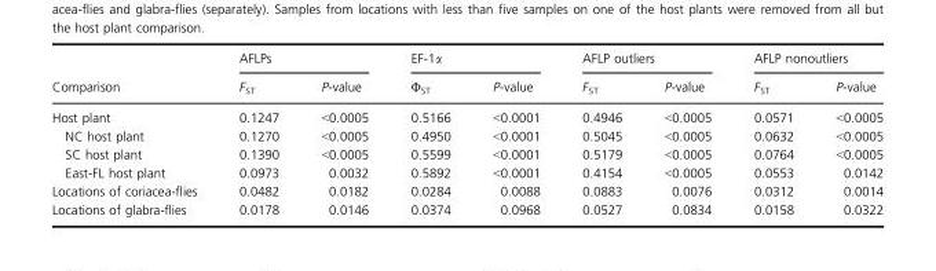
<table><thead><tr><td rowspan="2">Comparison</td><td colspan="2">AFLPs</td><td colspan="2">EF-1α</td><td colspan="2">AFLP outliers</td><td colspan="2">AFLP nonoutliers</td></tr><tr><td>F<sub>ST</sub></td><td>P-value</td><td>Φ<sub>ST</sub></td><td>P-value</td><td>F<sub>ST</sub></td><td>P-value</td><td>F<sub>ST</sub></td><td>P-value</td></tr></thead><tbody><tr><td>Host plant</td><td>0.1247</td><td>&lt;0.0005</td><td>0.5166</td><td>&lt;0.0001</td><td>0.4946</td><td>&lt;0.0005</td><td>0.0571</td><td>&lt;0.0005</td></tr><tr><td>NC host plant</td><td>0.1270</td><td>&lt;0.0005</td><td>0.4950</td><td>&lt;0.0001</td><td>0.5045</td><td>&lt;0.0005</td><td>0.0632</td><td>&lt;0.0005</td></tr><tr><td>SC host plant</td><td>0.1390</td><td>&lt;0.0005</td><td>0.5599</td><td>&lt;0.0001</td><td>0.5179</td><td>&lt;0.0005</td><td>0.0764</td><td>&lt;0.0005</td></tr><tr><td>East-FL host plant</td><td>0.0973</td><td>0.0032</td><td>0.5892</td><td>&lt;0.0001</td><td>0.4154</td><td>&lt;0.0005</td><td>0.0553</td><td>0.0142</td></tr><tr><td>Locations of coriacea-flies</td><td>0.0482</td><td>0.0182</td><td>0.0284</td><td>0.0088</td><td>0.0883</td><td>0.0076</td><td>0.0312</td><td>0.0014</td></tr><tr><td>Locations of glabra-flies</td><td>0.0178</td><td>0.0146</td><td>0.0374</td><td>0.0968</td><td>0.0527</td><td>0.0834</td><td>0.0158</td><td>0.0322</td></tr></tbody></table>